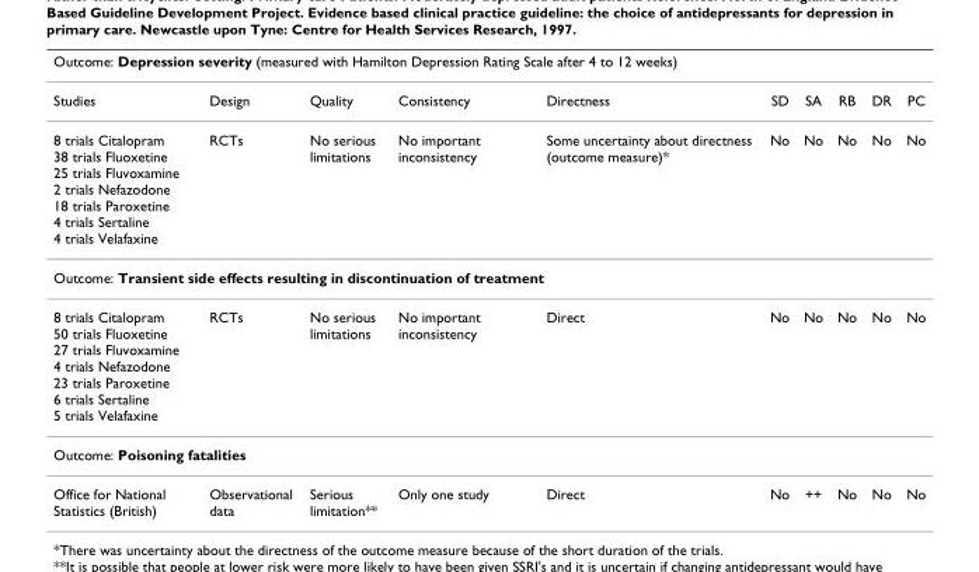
<table><thead><tr><td colspan="10">Outcome: Depression severity (measured with Hamilton Depression Rating Scale after 4 to 12 weeks)</td></tr><tr><td>Studies</td><td>Design</td><td>Quality</td><td>Consistency</td><td>Directness</td><td>SD</td><td>SA</td><td>RB</td><td>DR</td><td>PC</td></tr></thead><tbody><tr><td>8 trials Citalopram 38 trials Fluoxetine 25 trials Fluvoxamine 2 trials Nefazodone 18 trials Paroxetine 4 trials Sertaline 4 trials Velafaxine</td><td>RCTs</td><td>No serious limitations</td><td>No important inconsistency</td><td>Some uncertainty about directness (outcome measure)*</td><td>No</td><td>No</td><td>No</td><td>No</td><td>No</td></tr><tr><td colspan="10">Outcome: Transient side effects resulting in discontinuation of treatment</td></tr><tr><td>8 trials Citalopram 50 trials Fluoxetine 27 trials Fluvoxamine 4 trials Nefazodone 23 trials Paroxetine 6 trials Sertaline 5 trials Velafaxine</td><td>RCTs</td><td>No serious limitations</td><td>No important inconsistency</td><td>Direct</td><td>No</td><td>No</td><td>No</td><td>No</td><td>No</td></tr><tr><td colspan="10">Outcome: Poisoning fatalities</td></tr><tr><td>Office for National Statistics (British)</td><td>Observational data</td><td>Serious limitation**</td><td>Only one study</td><td>Direct</td><td>No</td><td>++</td><td>No</td><td>No</td><td>No</td></tr></tbody></table>